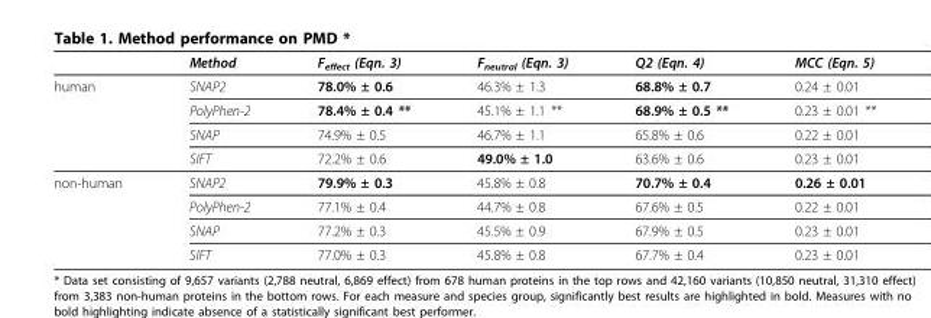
<table><thead><tr><td></td><td>Method</td><td>F<sub>effect</sub> (Eqn. 3)</td><td>F<sub>neutral</sub> (Eqn. 3)</td><td>Q2 (Eqn. 4)</td><td>MCC (Eqn. 5)</td></tr></thead><tbody><tr><td rowspan="4">human</td><td>SNAP2</td><td>78.0% ± 0.6</td><td>46.3% ± 1.3</td><td>68.8% ± 0.7</td><td>0.24 ± 0.01</td></tr><tr><td>PolyPhen-2</td><td>78.4% ± 0.4 **</td><td>45.1% ± 1.1 **</td><td>68.9% ± 0.5 **</td><td>0.23 ± 0.01 **</td></tr><tr><td>SNAP</td><td>74.9% ± 0.5</td><td>46.7% ± 1.1</td><td>65.8% ± 0.6</td><td>0.22 ± 0.01</td></tr><tr><td>SIFT</td><td>72.2% ± 0.6</td><td>49.0% ± 1.0</td><td>63.6% ± 0.6</td><td>0.23 ± 0.01</td></tr><tr><td rowspan="4">non-human</td><td>SNAP2</td><td>79.9% ± 0.3</td><td>45.8% ± 0.8</td><td>70.7% ± 0.4</td><td>0.26 ± 0.01</td></tr><tr><td>PolyPhen-2</td><td>77.1% ± 0.4</td><td>44.7% ± 0.8</td><td>67.6% ± 0.5</td><td>0.22 ± 0.01</td></tr><tr><td>SNAP</td><td>77.2% ± 0.3</td><td>45.5% ± 0.9</td><td>67.9% ± 0.5</td><td>0.23 ± 0.01</td></tr><tr><td>SIFT</td><td>77.0% ± 0.3</td><td>45.8% ± 0.8</td><td>67.7% ± 0.4</td><td>0.23 ± 0.01</td></tr></tbody></table>